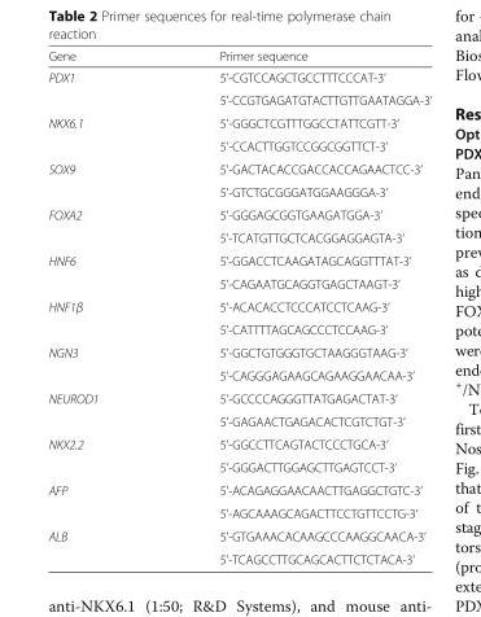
<table><thead><tr><td>Gene</td><td>Primer sequence</td></tr></thead><tbody><tr><td rowspan="2">PDX1</td><td>5’-CGTCCAGCTGCCTTTCCCAT-3’</td></tr><tr><td>5’-CCGTGAGATGTACTTGTTGAATAGGA-3’</td></tr><tr><td rowspan="2">NKX6.1</td><td>5’-GGGCTCGTTTGGCCTATTCGTT-3’</td></tr><tr><td>5’-CCACTTGGTCCGGCGGTTCT-3’</td></tr><tr><td rowspan="2">SOX9</td><td>5’-GACTACACCGACCACCAGAACTCC-3’</td></tr><tr><td>5’-GTCTGCGGGATGGAAGGGA-3’</td></tr><tr><td rowspan="2">FOXA2</td><td>5’-GGGAGCGGTGAAGATGGA-3’</td></tr><tr><td>5’-TCATGTTGCTCACGGAGGAGTA-3’</td></tr><tr><td rowspan="2">HNF6</td><td>5’-GGACCTCAAGATAGCAGGTTTAT-3’</td></tr><tr><td>5’-CAGAATGCAGGTGAGCTAAGT-3’</td></tr><tr><td rowspan="2">HNF1β</td><td>5’-ACACACCTCCCATCCTCAAG-3’</td></tr><tr><td>5’-CATTTTAGCAGCCCTCCAAG-3’</td></tr><tr><td rowspan="2">NGN3</td><td>5’-GGCTGTGGGTGCTAAGGGTAAG-3’</td></tr><tr><td>5’-CAGGGAGAAGCAGAAGGAACAA-3’</td></tr><tr><td rowspan="2">NEUROD1</td><td>5’-GCCCCAGGGTTATGAGACTAT-3’</td></tr><tr><td>5’-GAGAACTGAGACACTCGTCTGT-3’</td></tr><tr><td rowspan="2">NKX2.2</td><td>5’-GGCCTTCAGTACTCCCTGCA-3’</td></tr><tr><td>5’-GGGACTTGGAGCTTGAGTCCT-3’</td></tr><tr><td rowspan="2">AFP</td><td>5’-ACAGAGGAACAACTTGAGGCTGTC-3’</td></tr><tr><td>5’-AGCAAAGCAGACTTCCTGTTCCTG-3’</td></tr><tr><td rowspan="2">ALB</td><td>5’-GTGAAACACAAGCCCAAGGCAACA-3’</td></tr><tr><td>5’-TCAGCCTTGCAGCACTTCTCTACA-3’</td></tr></tbody></table>